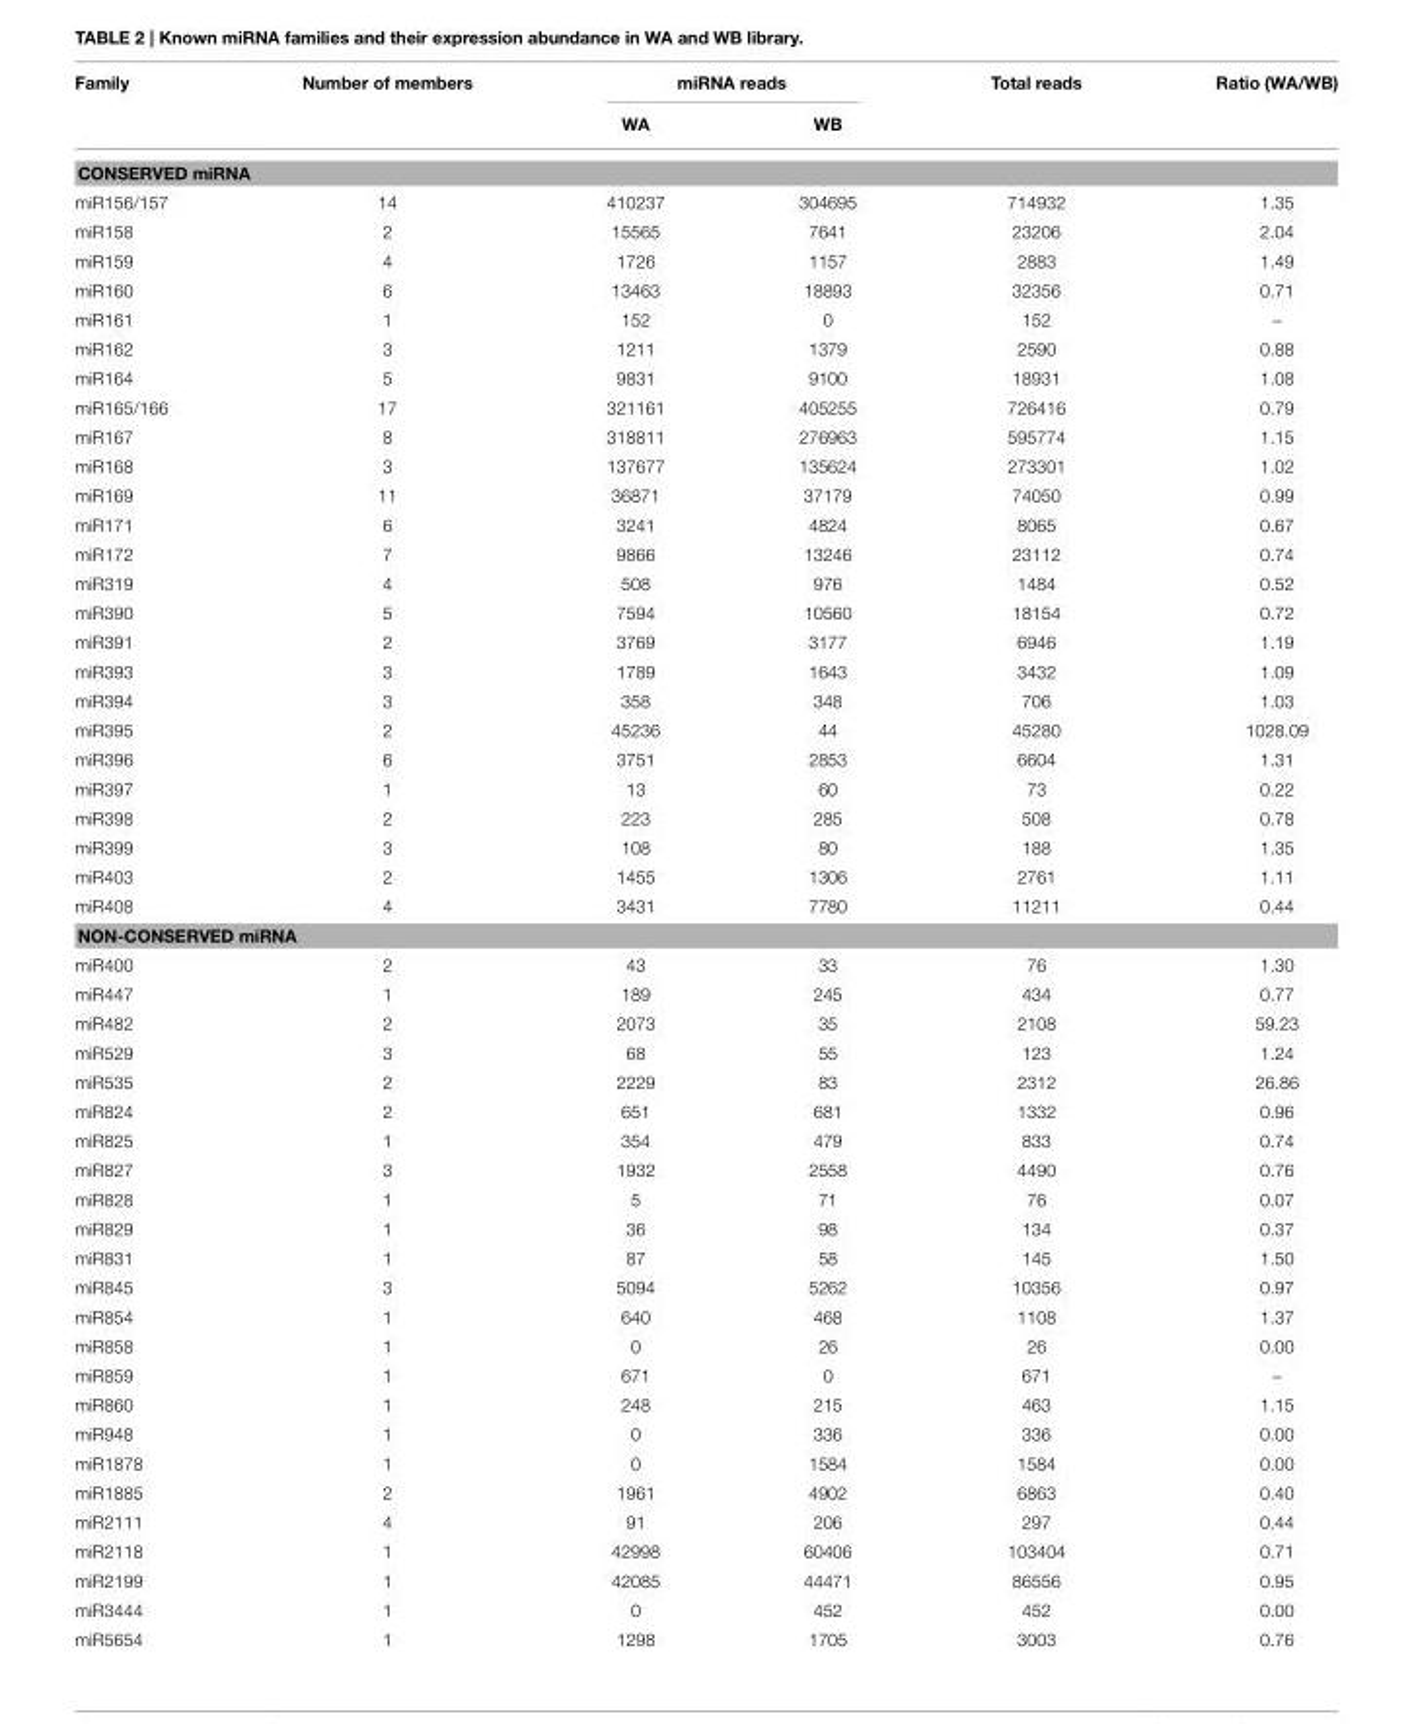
<table><thead><tr><td rowspan="2">Family</td><td rowspan="2">Number of members</td><td colspan="2">miRNA reads</td><td rowspan="2">Total reads</td><td rowspan="2">Ratio (WA/WB)</td></tr><tr><td>WA</td><td>WB</td></tr></thead><tbody><tr><td colspan="6">CONSERVED miRNA</td></tr><tr><td>miR156/157</td><td>14</td><td>410237</td><td>304695</td><td>714932</td><td>1.35</td></tr><tr><td>miR158</td><td>2</td><td>15565</td><td>7641</td><td>23206</td><td>2.04</td></tr><tr><td>miR159</td><td>4</td><td>1726</td><td>1157</td><td>2883</td><td>1.49</td></tr><tr><td>miR160</td><td>6</td><td>13463</td><td>18893</td><td>32356</td><td>0.71</td></tr><tr><td>miR161</td><td>1</td><td>152</td><td>0</td><td>152</td><td>–</td></tr><tr><td>miR162</td><td>3</td><td>1211</td><td>1379</td><td>2590</td><td>0.88</td></tr><tr><td>miR164</td><td>5</td><td>9831</td><td>9100</td><td>18931</td><td>1.08</td></tr><tr><td>miR165/166</td><td>17</td><td>321161</td><td>405255</td><td>726416</td><td>0.79</td></tr><tr><td>miR167</td><td>8</td><td>318811</td><td>276963</td><td>595774</td><td>1.15</td></tr><tr><td>miR168</td><td>3</td><td>137677</td><td>135624</td><td>273301</td><td>1.02</td></tr><tr><td>miR169</td><td>11</td><td>36871</td><td>37179</td><td>74050</td><td>0.99</td></tr><tr><td>miR171</td><td>6</td><td>3241</td><td>4824</td><td>8065</td><td>0.67</td></tr><tr><td>miR172</td><td>7</td><td>9866</td><td>13246</td><td>23112</td><td>0.74</td></tr><tr><td>miR319</td><td>4</td><td>508</td><td>976</td><td>1484</td><td>0.52</td></tr><tr><td>miR390</td><td>5</td><td>7594</td><td>10560</td><td>18154</td><td>0.72</td></tr><tr><td>miR391</td><td>2</td><td>3769</td><td>3177</td><td>6946</td><td>1.19</td></tr><tr><td>miR393</td><td>3</td><td>1789</td><td>1643</td><td>3432</td><td>1.09</td></tr><tr><td>miR394</td><td>3</td><td>358</td><td>348</td><td>706</td><td>1.03</td></tr><tr><td>miR395</td><td>2</td><td>45236</td><td>44</td><td>45280</td><td>1028.09</td></tr><tr><td>miR396</td><td>6</td><td>3751</td><td>2853</td><td>6604</td><td>1.31</td></tr><tr><td>miR397</td><td>1</td><td>13</td><td>60</td><td>73</td><td>0.22</td></tr><tr><td>miR398</td><td>2</td><td>223</td><td>285</td><td>508</td><td>0.78</td></tr><tr><td>miR399</td><td>3</td><td>108</td><td>80</td><td>188</td><td>1.35</td></tr><tr><td>miR403</td><td>2</td><td>1455</td><td>1306</td><td>2761</td><td>1.11</td></tr><tr><td>miR408</td><td>4</td><td>3431</td><td>7780</td><td>11211</td><td>0.44</td></tr><tr><td colspan="6">NON-CONSERVED miRNA</td></tr><tr><td>miR400</td><td>2</td><td>43</td><td>33</td><td>76</td><td>1.30</td></tr><tr><td>miR447</td><td>1</td><td>189</td><td>245</td><td>434</td><td>0.77</td></tr><tr><td>miR482</td><td>2</td><td>2073</td><td>35</td><td>2108</td><td>59.23</td></tr><tr><td>miR529</td><td>3</td><td>68</td><td>55</td><td>123</td><td>1.24</td></tr><tr><td>miR535</td><td>2</td><td>2229</td><td>83</td><td>2312</td><td>26.86</td></tr><tr><td>miR824</td><td>2</td><td>651</td><td>681</td><td>1332</td><td>0.96</td></tr><tr><td>miR825</td><td>1</td><td>354</td><td>479</td><td>833</td><td>0.74</td></tr><tr><td>miR827</td><td>3</td><td>1932</td><td>2558</td><td>4490</td><td>0.76</td></tr><tr><td>miR828</td><td>1</td><td>5</td><td>71</td><td>76</td><td>0.07</td></tr><tr><td>miR829</td><td>1</td><td>36</td><td>98</td><td>134</td><td>0.37</td></tr><tr><td>miR831</td><td>1</td><td>87</td><td>58</td><td>145</td><td>1.50</td></tr><tr><td>miR845</td><td>3</td><td>5094</td><td>5262</td><td>10356</td><td>0.97</td></tr><tr><td>miR854</td><td>1</td><td>640</td><td>468</td><td>1108</td><td>1.37</td></tr><tr><td>miR858</td><td>1</td><td>0</td><td>26</td><td>26</td><td>0.00</td></tr><tr><td>miR859</td><td>1</td><td>671</td><td>0</td><td>671</td><td>–</td></tr><tr><td>miR860</td><td>1</td><td>248</td><td>215</td><td>463</td><td>1.15</td></tr><tr><td>miR948</td><td>1</td><td>0</td><td>336</td><td>336</td><td>0.00</td></tr><tr><td>miR1878</td><td>1</td><td>0</td><td>1584</td><td>1584</td><td>0.00</td></tr><tr><td>miR1885</td><td>2</td><td>1961</td><td>4902</td><td>6863</td><td>0.40</td></tr><tr><td>miR2111</td><td>4</td><td>91</td><td>206</td><td>297</td><td>0.44</td></tr><tr><td>miR2118</td><td>1</td><td>42998</td><td>60406</td><td>103404</td><td>0.71</td></tr><tr><td>miR2199</td><td>1</td><td>42085</td><td>44471</td><td>86556</td><td>0.95</td></tr><tr><td>miR3444</td><td>1</td><td>0</td><td>452</td><td>452</td><td>0.00</td></tr><tr><td>miR5654</td><td>1</td><td>1298</td><td>1705</td><td>3003</td><td>0.76</td></tr></tbody></table>